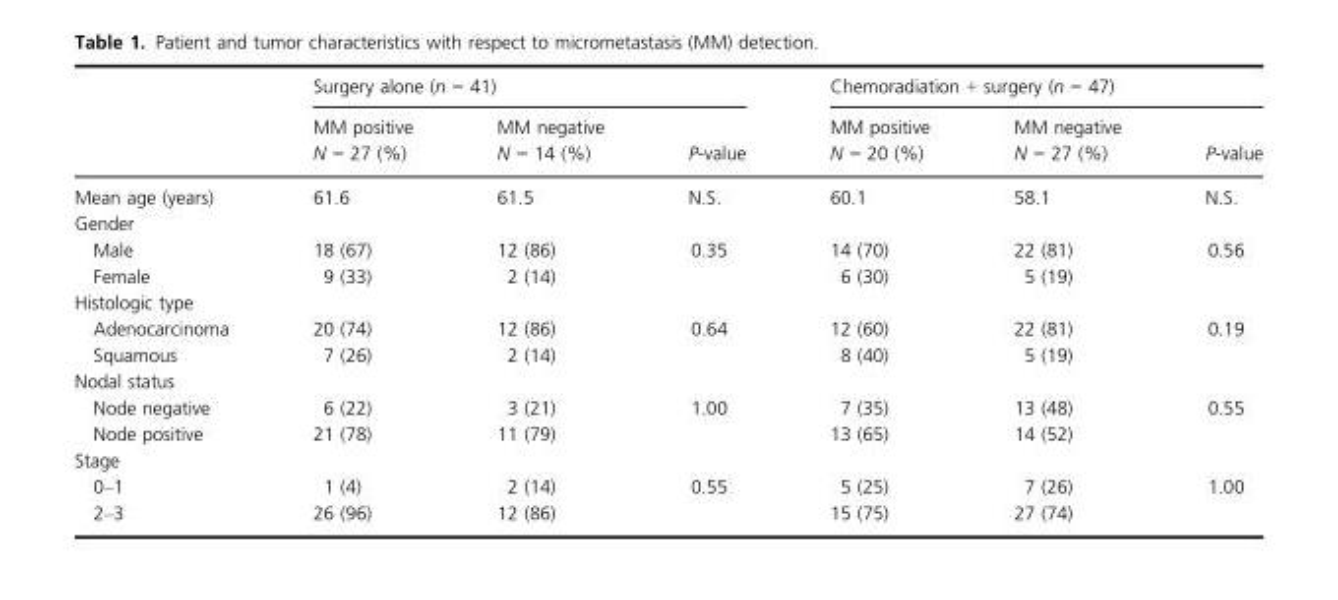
<table><thead><tr><td rowspan="2"></td><td colspan="3">Surgery alone (n = 41)</td><td colspan="3">Chemoradiation + surgery (n = 47)</td></tr><tr><td>MM positive N = 27 (%)</td><td>MM negative N = 14 (%)</td><td>P-value</td><td>MM positive N = 20 (%)</td><td>MM negative N = 27 (%)</td><td>P-value</td></tr></thead><tbody><tr><td>Mean age (years)</td><td>61.6</td><td>61.5</td><td>N.S.</td><td>60.1</td><td>58.1</td><td>N.S.</td></tr><tr><td colspan="7">Gender</td></tr><tr><td>Male</td><td>18 (67)</td><td>12 (86)</td><td rowspan="2">0.35</td><td>14 (70)</td><td>22 (81)</td><td rowspan="2">0.56</td></tr><tr><td>Female</td><td>9 (33)</td><td>2 (14)</td><td>6 (30)</td><td>5 (19)</td></tr><tr><td colspan="7">Histologic type</td></tr><tr><td>Adenocarcinoma</td><td>20 (74)</td><td>12 (86)</td><td rowspan="2">0.64</td><td>12 (60)</td><td>22 (81)</td><td rowspan="2">0.19</td></tr><tr><td>Squamous</td><td>7 (26)</td><td>2 (14)</td><td>8 (40)</td><td>5 (19)</td></tr><tr><td colspan="7">Nodal status</td></tr><tr><td>Node negative</td><td>6 (22)</td><td>3 (21)</td><td rowspan="2">1.00</td><td>7 (35)</td><td>13 (48)</td><td rowspan="2">0.55</td></tr><tr><td>Node positive</td><td>21 (78)</td><td>11 (79)</td><td>13 (65)</td><td>14 (52)</td></tr><tr><td colspan="7">Stage</td></tr><tr><td>0–1</td><td>1 (4)</td><td>2 (14)</td><td rowspan="2">0.55</td><td>5 (25)</td><td>7 (26)</td><td rowspan="2">1.00</td></tr><tr><td>2–3</td><td>26 (96)</td><td>12 (86)</td><td>15 (75)</td><td>27 (74)</td></tr></tbody></table>